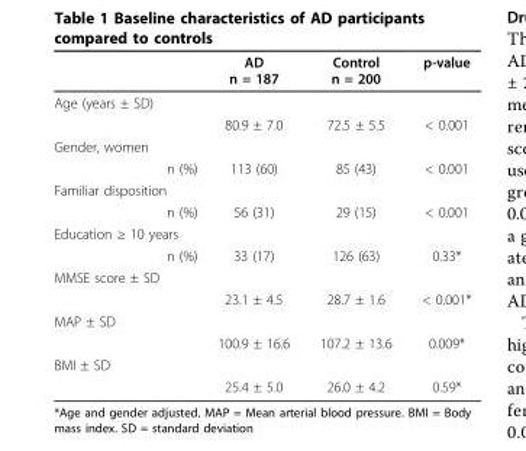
<table><thead><tr><td></td><td>AD n = 187</td><td>Control n = 200</td><td>p-value</td></tr></thead><tbody><tr><td colspan="4">Age (years ± SD)</td></tr><tr><td></td><td>80.9 ± 7.0</td><td>72.5 ± 5.5</td><td>&lt; 0.001</td></tr><tr><td colspan="4">Gender, women</td></tr><tr><td>n (%)</td><td>113 (60)</td><td>85 (43)</td><td>&lt; 0.001</td></tr><tr><td colspan="4">Familiar disposition</td></tr><tr><td>n (%)</td><td>56 (31)</td><td>29 (15)</td><td>&lt; 0.001</td></tr><tr><td colspan="4">Education ≥ 10 years</td></tr><tr><td>n (%)</td><td>33 (17)</td><td>126 (63)</td><td>0.33*</td></tr><tr><td colspan="4">MMSE score ± SD</td></tr><tr><td></td><td>23.1 ± 4.5</td><td>28.7 ± 1.6</td><td>&lt; 0.001*</td></tr><tr><td colspan="4">MAP ± SD</td></tr><tr><td></td><td>100.9 ± 16.6</td><td>107.2 ± 13.6</td><td>0.009*</td></tr><tr><td colspan="4">BMI ± SD</td></tr><tr><td></td><td>25.4 ± 5.0</td><td>26.0 ± 4.2</td><td>0.59*</td></tr></tbody></table>